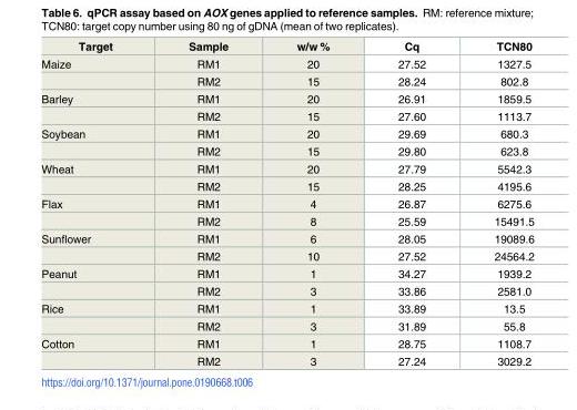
<table><thead><tr><td>Target</td><td>Sample</td><td>w/w %</td><td>Cq</td><td>TCN80</td></tr></thead><tbody><tr><td rowspan="2">Maize</td><td>RM1</td><td>20</td><td>27.52</td><td>1327.5</td></tr><tr><td>RM2</td><td>15</td><td>28.24</td><td>802.8</td></tr><tr><td rowspan="2">Barley</td><td>RM1</td><td>20</td><td>26.91</td><td>1859.5</td></tr><tr><td>RM2</td><td>15</td><td>27.60</td><td>1113.7</td></tr><tr><td rowspan="2">Soybean</td><td>RM1</td><td>20</td><td>29.69</td><td>680.3</td></tr><tr><td>RM2</td><td>15</td><td>29.80</td><td>623.8</td></tr><tr><td rowspan="2">Wheat</td><td>RM1</td><td>20</td><td>27.79</td><td>5542.3</td></tr><tr><td>RM2</td><td>15</td><td>28.25</td><td>4195.6</td></tr><tr><td rowspan="2">Flax</td><td>RM1</td><td>4</td><td>26.87</td><td>6275.6</td></tr><tr><td>RM2</td><td>8</td><td>25.59</td><td>15491.5</td></tr><tr><td rowspan="2">Sunflower</td><td>RM1</td><td>6</td><td>28.05</td><td>19089.6</td></tr><tr><td>RM2</td><td>10</td><td>27.52</td><td>24564.2</td></tr><tr><td rowspan="2">Peanut</td><td>RM1</td><td>1</td><td>34.27</td><td>1939.2</td></tr><tr><td>RM2</td><td>3</td><td>33.86</td><td>2581.0</td></tr><tr><td rowspan="2">Rice</td><td>RM1</td><td>1</td><td>33.89</td><td>13.5</td></tr><tr><td>RM2</td><td>3</td><td>31.89</td><td>55.8</td></tr><tr><td rowspan="2">Cotton</td><td>RM1</td><td>1</td><td>28.75</td><td>1108.7</td></tr><tr><td>RM2</td><td>3</td><td>27.24</td><td>3029.2</td></tr></tbody></table>